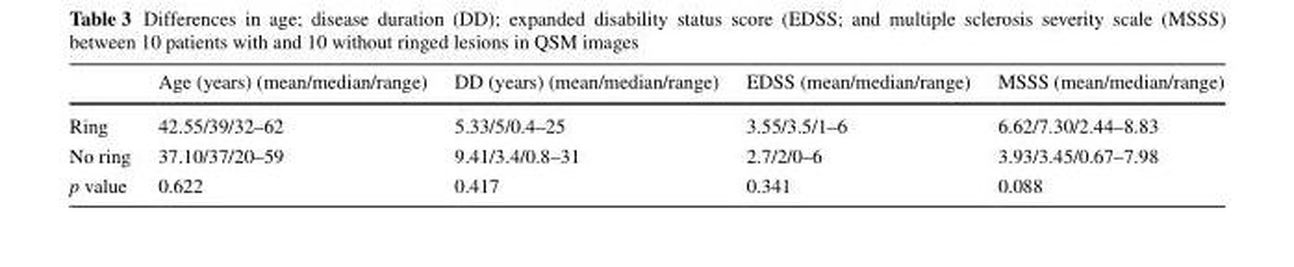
<table><thead><tr><td></td><td>Age (years) (mean/median/range)</td><td>DD (years) (mean/median/range)</td><td>EDSS (mean/median/range)</td><td>MSSS (mean/median/range)</td></tr></thead><tbody><tr><td>Ring</td><td>42.55/39/32–62</td><td>5.33/5/0.4–25</td><td>3.55/3.5/1–6</td><td>6.62/7.30/2.44–8.83</td></tr><tr><td>No ring</td><td>37.10/37/20–59</td><td>9.41/3.4/0.8–31</td><td>2.7/2/0–6</td><td>3.93/3.45/0.67–7.98</td></tr><tr><td>p value</td><td>0.622</td><td>0.417</td><td>0.341</td><td>0.088</td></tr></tbody></table>